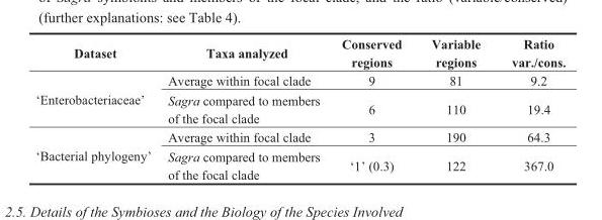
<table><thead><tr><td>Dataset</td><td>Taxa analyzed</td><td>Conserved regions</td><td>Variable regions</td><td>Ratio var./cons.</td></tr></thead><tbody><tr><td rowspan="2">‘Enterobacteriaceae’</td><td>Average within focal clade</td><td>9</td><td>81</td><td>9.2</td></tr><tr><td>Sagra compared to members of the focal clade</td><td>6</td><td>110</td><td>19.4</td></tr><tr><td rowspan="2">‘Bacterial phylogeny’</td><td>Average within focal clade</td><td>3</td><td>190</td><td>64.3</td></tr><tr><td>Sagra compared to members of the focal clade</td><td>‘1’ (0.3)</td><td>122</td><td>367.0</td></tr></tbody></table>